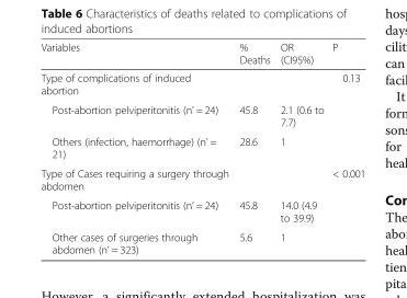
<table><thead><tr><td>Variables</td><td>% Deaths</td><td>OR (CI95%)</td><td>P</td></tr></thead><tbody><tr><td>Type of complications of induced abortion</td><td></td><td></td><td>0.13</td></tr><tr><td>Post-abortion pelviperitonitis (n’ = 24)</td><td>45.8</td><td>2.1 (0.6 to 7.7)</td><td></td></tr><tr><td>Others (infection, haemorrhage) (n’ = 21)</td><td>28.6</td><td>1</td><td></td></tr><tr><td>Type of Cases requiring a surgery through abdomen</td><td></td><td></td><td>&lt; 0.001</td></tr><tr><td>Post-abortion pelviperitonitis (n’ = 24)</td><td>45.8</td><td>14.0 (4.9 to 39.9)</td><td></td></tr><tr><td>Other cases of surgeries through abdomen (n’ = 323)</td><td>5.6</td><td>1</td><td></td></tr></tbody></table>